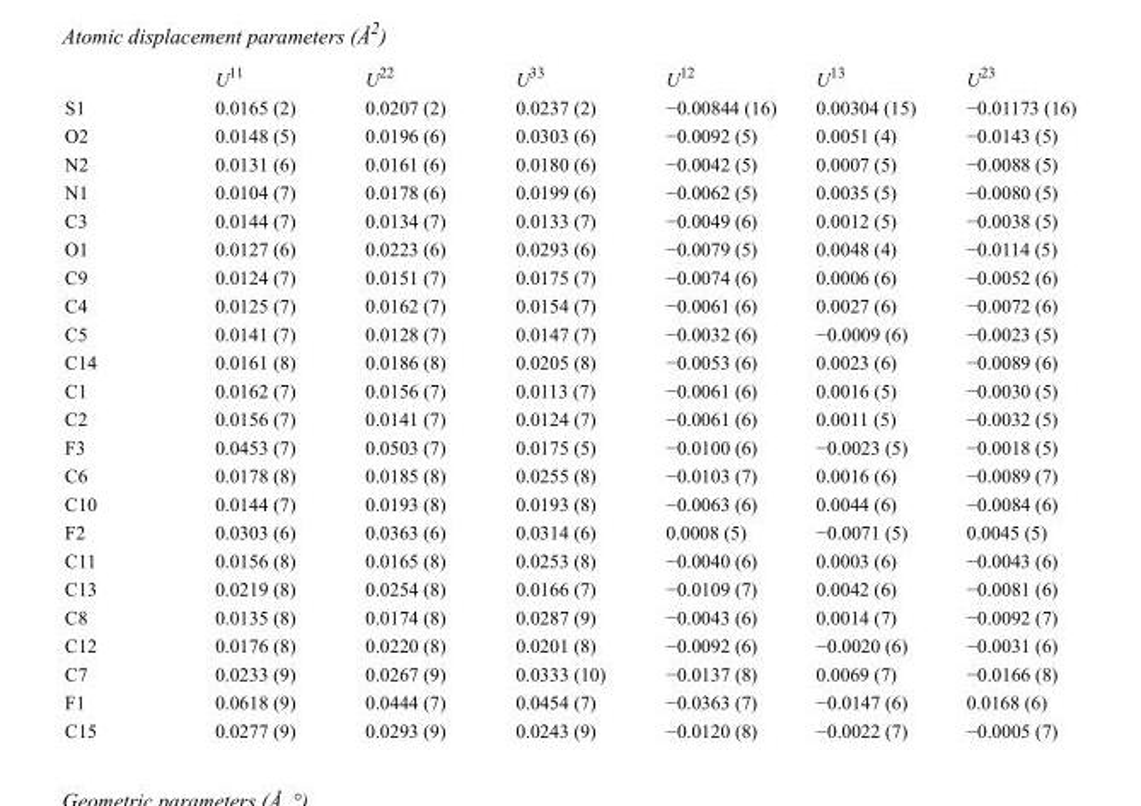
<table><thead><tr><td></td><td>U<sup>11</sup></td><td>U<sup>22</sup></td><td>U<sup>33</sup></td><td>U<sup>12</sup></td><td>U<sup>13</sup></td><td>U<sup>23</sup></td></tr></thead><tbody><tr><td>S1</td><td>0.0165 (2)</td><td>0.0207 (2)</td><td>0.0237 (2)</td><td>−0.00844 (16)</td><td>0.00304 (15)</td><td>−0.01173 (16)</td></tr><tr><td>O2</td><td>0.0148 (5)</td><td>0.0196 (6)</td><td>0.0303 (6)</td><td>−0.0092 (5)</td><td>0.0051 (4)</td><td>−0.0143 (5)</td></tr><tr><td>N2</td><td>0.0131 (6)</td><td>0.0161 (6)</td><td>0.0180 (6)</td><td>−0.0042 (5)</td><td>0.0007 (5)</td><td>−0.0088 (5)</td></tr><tr><td>N1</td><td>0.0104 (7)</td><td>0.0178 (6)</td><td>0.0199 (6)</td><td>−0.0062 (5)</td><td>0.0035 (5)</td><td>−0.0080 (5)</td></tr><tr><td>C3</td><td>0.0144 (7)</td><td>0.0134 (7)</td><td>0.0133 (7)</td><td>−0.0049 (6)</td><td>0.0012 (5)</td><td>−0.0038 (5)</td></tr><tr><td>O1</td><td>0.0127 (6)</td><td>0.0223 (6)</td><td>0.0293 (6)</td><td>−0.0079 (5)</td><td>0.0048 (4)</td><td>−0.0114 (5)</td></tr><tr><td>C9</td><td>0.0124 (7)</td><td>0.0151 (7)</td><td>0.0175 (7)</td><td>−0.0074 (6)</td><td>0.0006 (6)</td><td>−0.0052 (6)</td></tr><tr><td>C4</td><td>0.0125 (7)</td><td>0.0162 (7)</td><td>0.0154 (7)</td><td>−0.0061 (6)</td><td>0.0027 (6)</td><td>−0.0072 (6)</td></tr><tr><td>C5</td><td>0.0141 (7)</td><td>0.0128 (7)</td><td>0.0147 (7)</td><td>−0.0032 (6)</td><td>−0.0009 (6)</td><td>−0.0023 (5)</td></tr><tr><td>C14</td><td>0.0161 (8)</td><td>0.0186 (8)</td><td>0.0205 (8)</td><td>−0.0053 (6)</td><td>0.0023 (6)</td><td>−0.0089 (6)</td></tr><tr><td>C1</td><td>0.0162 (7)</td><td>0.0156 (7)</td><td>0.0113 (7)</td><td>−0.0061 (6)</td><td>0.0016 (5)</td><td>−0.0030 (5)</td></tr><tr><td>C2</td><td>0.0156 (7)</td><td>0.0141 (7)</td><td>0.0124 (7)</td><td>−0.0061 (6)</td><td>0.0011 (5)</td><td>−0.0032 (5)</td></tr><tr><td>F3</td><td>0.0453 (7)</td><td>0.0503 (7)</td><td>0.0175 (5)</td><td>−0.0100 (6)</td><td>−0.0023 (5)</td><td>−0.0018 (5)</td></tr><tr><td>C6</td><td>0.0178 (8)</td><td>0.0185 (8)</td><td>0.0255 (8)</td><td>−0.0103 (7)</td><td>0.0016 (6)</td><td>−0.0089 (7)</td></tr><tr><td>C10</td><td>0.0144 (7)</td><td>0.0193 (8)</td><td>0.0193 (8)</td><td>−0.0063 (6)</td><td>0.0044 (6)</td><td>−0.0084 (6)</td></tr><tr><td>F2</td><td>0.0303 (6)</td><td>0.0363 (6)</td><td>0.0314 (6)</td><td>0.0008 (5)</td><td>−0.0071 (5)</td><td>0.0045 (5)</td></tr><tr><td>C11</td><td>0.0156 (8)</td><td>0.0165 (8)</td><td>0.0253 (8)</td><td>−0.0040 (6)</td><td>0.0003 (6)</td><td>−0.0043 (6)</td></tr><tr><td>C13</td><td>0.0219 (8)</td><td>0.0254 (8)</td><td>0.0166 (7)</td><td>−0.0109 (7)</td><td>0.0042 (6)</td><td>−0.0081 (6)</td></tr><tr><td>C8</td><td>0.0135 (8)</td><td>0.0174 (8)</td><td>0.0287 (9)</td><td>−0.0043 (6)</td><td>0.0014 (7)</td><td>−0.0092 (7)</td></tr><tr><td>C12</td><td>0.0176 (8)</td><td>0.0220 (8)</td><td>0.0201 (8)</td><td>−0.0092 (6)</td><td>−0.0020 (6)</td><td>−0.0031 (6)</td></tr><tr><td>C7</td><td>0.0233 (9)</td><td>0.0267 (9)</td><td>0.0333 (10)</td><td>−0.0137 (8)</td><td>0.0069 (7)</td><td>−0.0166 (8)</td></tr><tr><td>F1</td><td>0.0618 (9)</td><td>0.0444 (7)</td><td>0.0454 (7)</td><td>−0.0363 (7)</td><td>−0.0147 (6)</td><td>0.0168 (6)</td></tr><tr><td>C15</td><td>0.0277 (9)</td><td>0.0293 (9)</td><td>0.0243 (9)</td><td>−0.0120 (8)</td><td>−0.0022 (7)</td><td>−0.0005 (7)</td></tr></tbody></table>